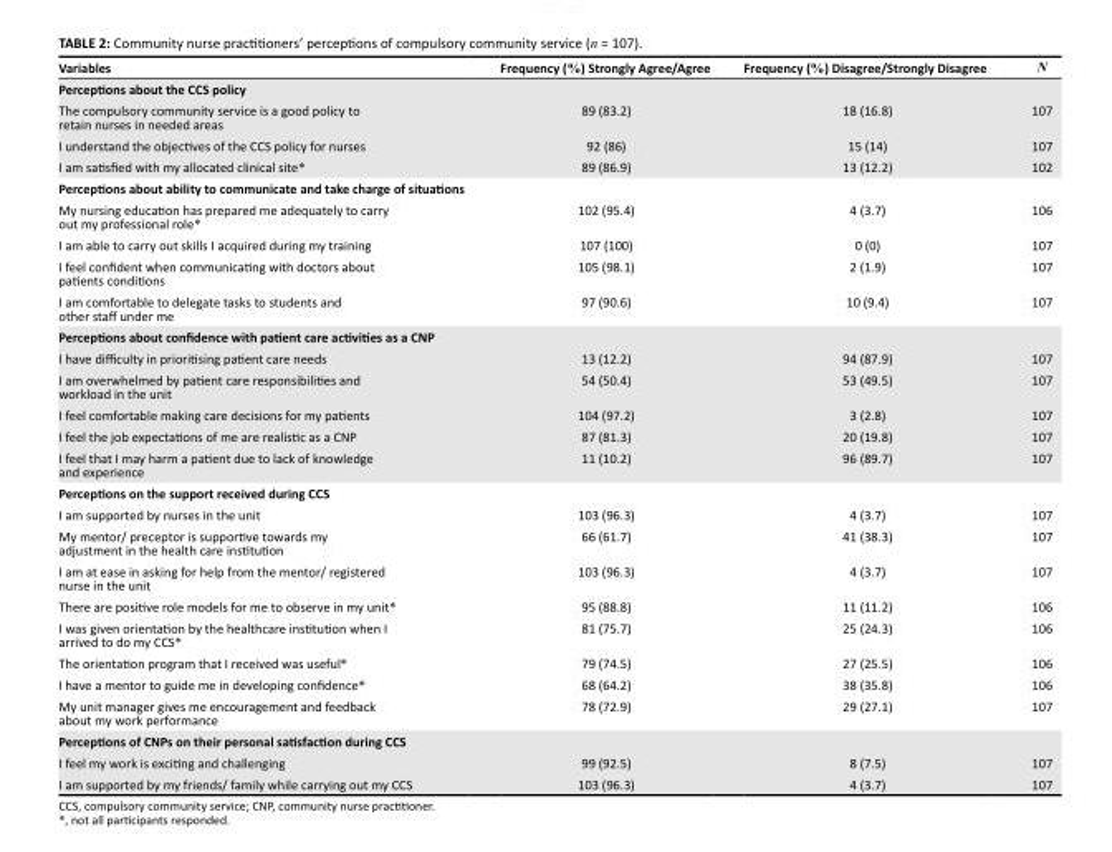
<table><thead><tr><td>Variables</td><td>Frequency (%) Strongly Agree/Agree</td><td>Frequency (%) Disagree/Strongly Disagree</td><td>N</td></tr></thead><tbody><tr><td colspan="4">Perceptions about the CCS policy</td></tr><tr><td>The compulsory community service is a good policy to retain nurses in needed areas</td><td>89 (83.2)</td><td>18 (16.8)</td><td>107</td></tr><tr><td>I understand the objectives of the CCS policy for nurses</td><td>92 (86)</td><td>15 (14)</td><td>107</td></tr><tr><td>I am satisfied with my allocated clinical site*</td><td>89 (86.9)</td><td>13 (12.2)</td><td>102</td></tr><tr><td colspan="4">Perceptions about ability to communicate and take charge of situations</td></tr><tr><td>My nursing education has prepared me adequately to carry out my professional role*</td><td>102 (95.4)</td><td>4 (3.7)</td><td>106</td></tr><tr><td>I am able to carry out skills I acquired during my training</td><td>107 (100)</td><td>0 (0)</td><td>107</td></tr><tr><td>I feel confident when communicating with doctors about patients conditions</td><td>105 (98.1)</td><td>2 (1.9)</td><td>107</td></tr><tr><td>I am comfortable to delegate tasks to students and other staff under me</td><td>97 (90.6)</td><td>10 (9.4)</td><td>107</td></tr><tr><td colspan="4">Perceptions about confidence with patient care activities as a CNP</td></tr><tr><td>I have difficulty in prioritising patient care needs</td><td>13 (12.2)</td><td>94 (87.9)</td><td>107</td></tr><tr><td>I am overwhelmed by patient care responsibilities and workload in the unit</td><td>54 (50.4)</td><td>53 (49.5)</td><td>107</td></tr><tr><td>I feel comfortable making care decisions for my patients</td><td>104 (97.2)</td><td>3 (2.8)</td><td>107</td></tr><tr><td>I feel the job expectations of me are realistic as a CNP</td><td>87 (81.3)</td><td>20 (19.8)</td><td>107</td></tr><tr><td>I feel that I may harm a patient due to lack of knowledge and experience</td><td>11 (10.2)</td><td>96 (89.7)</td><td>107</td></tr><tr><td colspan="4">Perceptions on the support received during CCS</td></tr><tr><td>I am supported by nurses in the unit</td><td>103 (96.3)</td><td>4 (3.7)</td><td>107</td></tr><tr><td>My mentor/ preceptor is supportive towards my adjustment in the health care institution</td><td>66 (61.7)</td><td>41 (38.3)</td><td>107</td></tr><tr><td>I am at ease in asking for help from the mentor/ registered nurse in the unit</td><td>103 (96.3)</td><td>4 (3.7)</td><td>107</td></tr><tr><td>There are positive role models for me to observe in my unit*</td><td>95 (88.8)</td><td>11 (11.2)</td><td>106</td></tr><tr><td>I was given orientation by the healthcare institution when I arrived to do my CCS*</td><td>81 (75.7)</td><td>25 (24.3)</td><td>106</td></tr><tr><td>The orientation program that I received was useful*</td><td>79 (74.5)</td><td>27 (25.5)</td><td>106</td></tr><tr><td>I have a mentor to guide me in developing confidence*</td><td>68 (64.2)</td><td>38 (35.8)</td><td>106</td></tr><tr><td>My unit manager gives me encouragement and feedback about my work performance</td><td>78 (72.9)</td><td>29 (27.1)</td><td>107</td></tr><tr><td colspan="4">Perceptions of CNPs on their personal satisfaction during CCS</td></tr><tr><td>I feel my work is exciting and challenging</td><td>99 (92.5)</td><td>8 (7.5)</td><td>107</td></tr><tr><td>I am supported by my friends/ family while carrying out my CCS</td><td>103 (96.3)</td><td>4 (3.7)</td><td>107</td></tr></tbody></table>